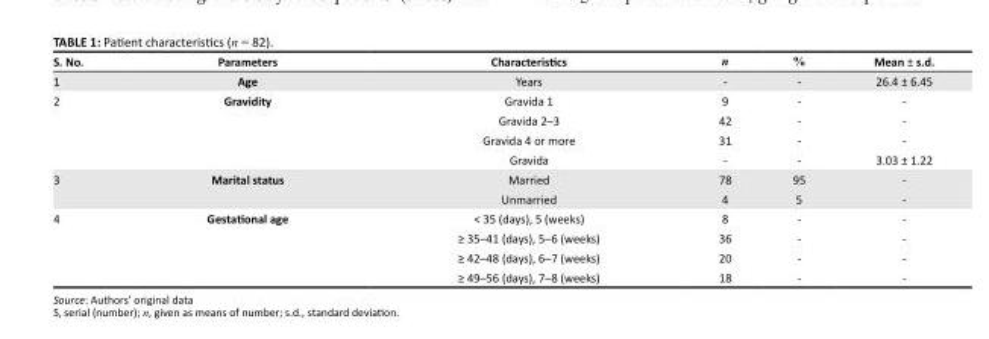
<table><thead><tr><td>S. No.</td><td>Parameters</td><td>Characteristics</td><td>n</td><td>%</td><td>Mean ± s.d.</td></tr></thead><tbody><tr><td>1</td><td>Age</td><td>Years</td><td>-</td><td>-</td><td>26.4 ± 6.45</td></tr><tr><td rowspan="4">2</td><td>Gravidity</td><td>Gravida 1</td><td>9</td><td>-</td><td>-</td></tr><tr><td></td><td>Gravida 2–3</td><td>42</td><td>-</td><td>-</td></tr><tr><td></td><td>Gravida 4 or more</td><td>31</td><td>-</td><td>-</td></tr><tr><td></td><td>Gravida</td><td>-</td><td>-</td><td>3.03 ± 1.22</td></tr><tr><td rowspan="2">3</td><td>Marital status</td><td>Married</td><td>78</td><td>95</td><td>-</td></tr><tr><td></td><td>Unmarried</td><td>4</td><td>5</td><td>-</td></tr><tr><td rowspan="4">4</td><td>Gestational age</td><td>&lt; 35 (days), 5 (weeks)</td><td>8</td><td>-</td><td>-</td></tr><tr><td></td><td>≥ 35–41 (days), 5–6 (weeks)</td><td>36</td><td>-</td><td>-</td></tr><tr><td></td><td>≥ 42–48 (days), 6–7 (weeks)</td><td>20</td><td>-</td><td>-</td></tr><tr><td></td><td>≥ 49–56 (days), 7–8 (weeks)</td><td>18</td><td>-</td><td>-</td></tr></tbody></table>